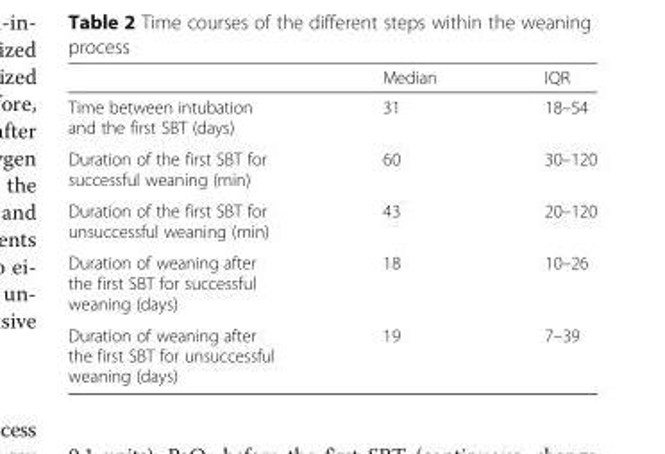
<table><thead><tr><td></td><td>Median</td><td>IQR</td></tr></thead><tbody><tr><td>Time between intubation and the first SBT (days)</td><td>31</td><td>18–54</td></tr><tr><td>Duration of the first SBT for successful weaning (min)</td><td>60</td><td>30–120</td></tr><tr><td>Duration of the first SBT for unsuccessful weaning (min)</td><td>43</td><td>20–120</td></tr><tr><td>Duration of weaning after the first SBT for successful weaning (days)</td><td>18</td><td>10–26</td></tr><tr><td>Duration of weaning after the first SBT for unsuccessful weaning (days)</td><td>19</td><td>7–39</td></tr></tbody></table>